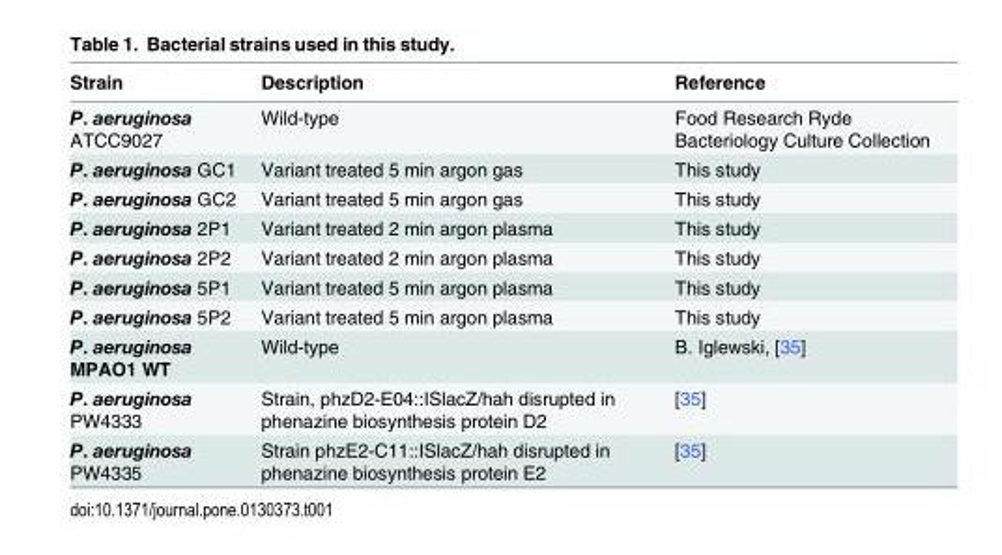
<table><thead><tr><td>Strain</td><td>Description</td><td>Reference</td></tr></thead><tbody><tr><td>P. aeruginosa ATCC9027</td><td>Wild-type</td><td>Food Research Ryde Bacteriology Culture Collection</td></tr><tr><td>P. aeruginosa GC1</td><td>Variant treated 5 min argon gas</td><td>This study</td></tr><tr><td>P. aeruginosa GC2</td><td>Variant treated 5 min argon gas</td><td>This study</td></tr><tr><td>P. aeruginosa 2P1</td><td>Variant treated 2 min argon plasma</td><td>This study</td></tr><tr><td>P. aeruginosa 2P2</td><td>Variant treated 2 min argon plasma</td><td>This study</td></tr><tr><td>P. aeruginosa 5P1</td><td>Variant treated 5 min argon plasma</td><td>This study</td></tr><tr><td>P. aeruginosa 5P2</td><td>Variant treated 5 min argon plasma</td><td>This study</td></tr><tr><td>P. aeruginosa MPAO1 WT</td><td>Wild-type</td><td>B. Iglewski, [35]</td></tr><tr><td>P. aeruginosa PW4333</td><td>Strain, phzD2-E04::ISlacZ/hah disrupted in phenazine biosynthesis protein D2</td><td>[35]</td></tr><tr><td>P. aeruginosa PW4335</td><td>Strain phzE2-C11::ISlacZ/hah disrupted in phenazine biosynthesis protein E2</td><td>[35]</td></tr></tbody></table>